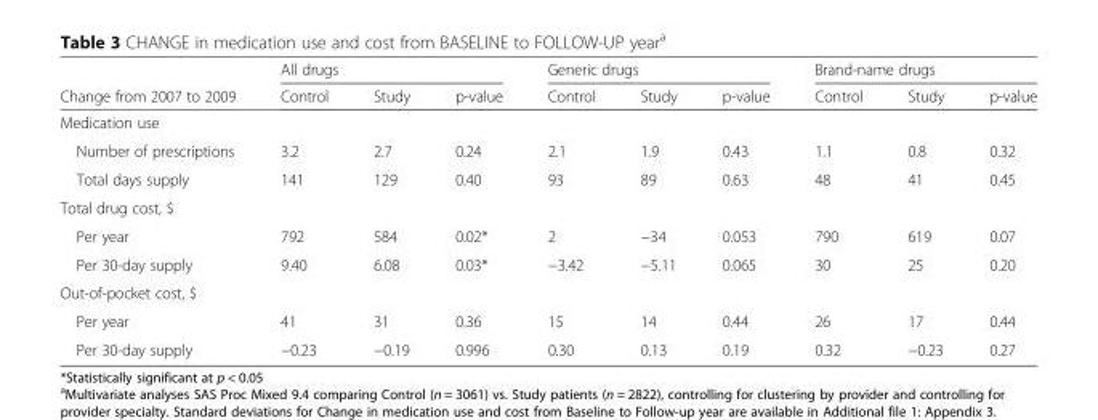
<table><thead><tr><td rowspan="2">Change from 2007 to 2009</td><td colspan="3">All drugs</td><td colspan="3">Generic drugs</td><td colspan="3">Brand-name drugs</td></tr><tr><td>Control</td><td>Study</td><td>p-value</td><td>Control</td><td>Study</td><td>p-value</td><td>Control</td><td>Study</td><td>p-value</td></tr></thead><tbody><tr><td colspan="10">Medication use</td></tr><tr><td>Number of prescriptions</td><td>3.2</td><td>2.7</td><td>0.24</td><td>2.1</td><td>1.9</td><td>0.43</td><td>1.1</td><td>0.8</td><td>0.32</td></tr><tr><td>Total days supply</td><td>141</td><td>129</td><td>0.40</td><td>93</td><td>89</td><td>0.63</td><td>48</td><td>41</td><td>0.45</td></tr><tr><td colspan="10">Total drug cost, $</td></tr><tr><td>Per year</td><td>792</td><td>584</td><td>0.02*</td><td>2</td><td>−34</td><td>0.053</td><td>790</td><td>619</td><td>0.07</td></tr><tr><td>Per 30-day supply</td><td>9.40</td><td>6.08</td><td>0.03*</td><td>−3.42</td><td>−5.11</td><td>0.065</td><td>30</td><td>25</td><td>0.20</td></tr><tr><td colspan="10">Out-of-pocket cost, $</td></tr><tr><td>Per year</td><td>41</td><td>31</td><td>0.36</td><td>15</td><td>14</td><td>0.44</td><td>26</td><td>17</td><td>0.44</td></tr><tr><td>Per 30-day supply</td><td>−0.23</td><td>−0.19</td><td>0.996</td><td>0.30</td><td>0.13</td><td>0.19</td><td>0.32</td><td>−0.23</td><td>0.27</td></tr></tbody></table>